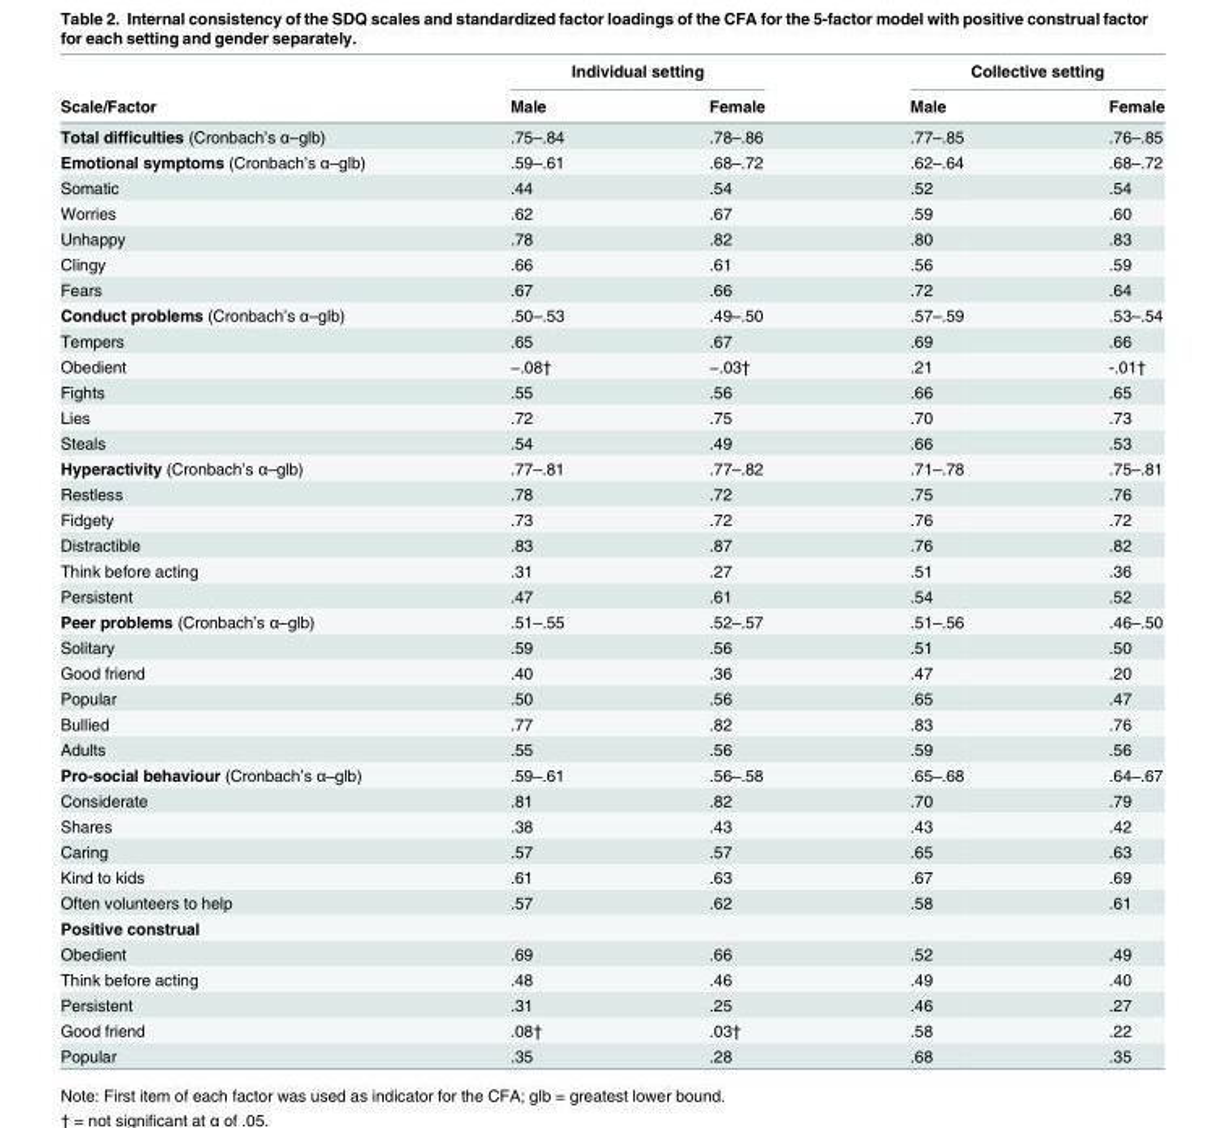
<table><thead><tr><td rowspan="2">Scale/Factor</td><td colspan="2">Individual setting</td><td colspan="2">Collective setting</td></tr><tr><td>Male</td><td>Female</td><td>Male</td><td>Female</td></tr></thead><tbody><tr><td>Total difficulties (Cronbach’s α–glb)</td><td>.75–.84</td><td>.78–.86</td><td>.77–.85</td><td>.76–.85</td></tr><tr><td>Emotional symptoms (Cronbach’s α‒glb)</td><td>.59–.61</td><td>.68–.72</td><td>.62–.64</td><td>.68–.72</td></tr><tr><td>Somatic</td><td>.44</td><td>.54</td><td>.52</td><td>.54</td></tr><tr><td>Worries</td><td>.62</td><td>.67</td><td>.59</td><td>.60</td></tr><tr><td>Unhappy</td><td>.78</td><td>.82</td><td>.80</td><td>.83</td></tr><tr><td>Clingy</td><td>.66</td><td>.61</td><td>.56</td><td>.59</td></tr><tr><td>Fears</td><td>.67</td><td>.66</td><td>.72</td><td>.64</td></tr><tr><td>Conduct problems (Cronbach’s α–glb)</td><td>.50–.53</td><td>.49–.50</td><td>.57–.59</td><td>.53–.54</td></tr><tr><td>Tempers</td><td>.65</td><td>.67</td><td>.69</td><td>.66</td></tr><tr><td>Obedient</td><td>−.08†</td><td>−.03†</td><td>.21</td><td>-.01†</td></tr><tr><td>Fights</td><td>.55</td><td>.56</td><td>.66</td><td>.65</td></tr><tr><td>Lies</td><td>.72</td><td>.75</td><td>.70</td><td>.73</td></tr><tr><td>Steals</td><td>.54</td><td>.49</td><td>.66</td><td>.53</td></tr><tr><td>Hyperactivity (Cronbach’s α–glb)</td><td>.77–.81</td><td>.77–.82</td><td>.71–.78</td><td>.75–.81</td></tr><tr><td>Restless</td><td>.78</td><td>.72</td><td>.75</td><td>.76</td></tr><tr><td>Fidgety</td><td>.73</td><td>.72</td><td>.76</td><td>.72</td></tr><tr><td>Distractible</td><td>.83</td><td>.87</td><td>.76</td><td>.82</td></tr><tr><td>Think before acting</td><td>.31</td><td>.27</td><td>.51</td><td>.36</td></tr><tr><td>Persistent</td><td>.47</td><td>.61</td><td>.54</td><td>.52</td></tr><tr><td>Peer problems (Cronbach’s α‒glb)</td><td>.51‒.55</td><td>.52–.57</td><td>.51‒.56</td><td>.46‒.50</td></tr><tr><td>Solitary</td><td>.59</td><td>.56</td><td>.51</td><td>.50</td></tr><tr><td>Good friend</td><td>.40</td><td>.36</td><td>.47</td><td>.20</td></tr><tr><td>Popular</td><td>.50</td><td>.56</td><td>.65</td><td>.47</td></tr><tr><td>Bullied</td><td>.77</td><td>.82</td><td>.83</td><td>.76</td></tr><tr><td>Adults</td><td>.55</td><td>.56</td><td>.59</td><td>.56</td></tr><tr><td>Pro-social behaviour (Cronbach’s α‒glb)</td><td>.59‒.61</td><td>.56‒.58</td><td>.65‒.68</td><td>.64‒.67</td></tr><tr><td>Considerate</td><td>.81</td><td>.82</td><td>.70</td><td>.79</td></tr><tr><td>Shares</td><td>.38</td><td>.43</td><td>.43</td><td>.42</td></tr><tr><td>Caring</td><td>.57</td><td>.57</td><td>.65</td><td>.63</td></tr><tr><td>Kind to kids</td><td>.61</td><td>.63</td><td>.67</td><td>.69</td></tr><tr><td>Often volunteers to help</td><td>.57</td><td>.62</td><td>.58</td><td>.61</td></tr><tr><td colspan="5">Positive construal</td></tr><tr><td>Obedient</td><td>.69</td><td>.66</td><td>.52</td><td>.49</td></tr><tr><td>Think before acting</td><td>.48</td><td>.46</td><td>.49</td><td>.40</td></tr><tr><td>Persistent</td><td>.31</td><td>.25</td><td>.46</td><td>.27</td></tr><tr><td>Good friend</td><td>.08†</td><td>.03†</td><td>.58</td><td>.22</td></tr><tr><td>Popular</td><td>.35</td><td>.28</td><td>.68</td><td>.35</td></tr></tbody></table>